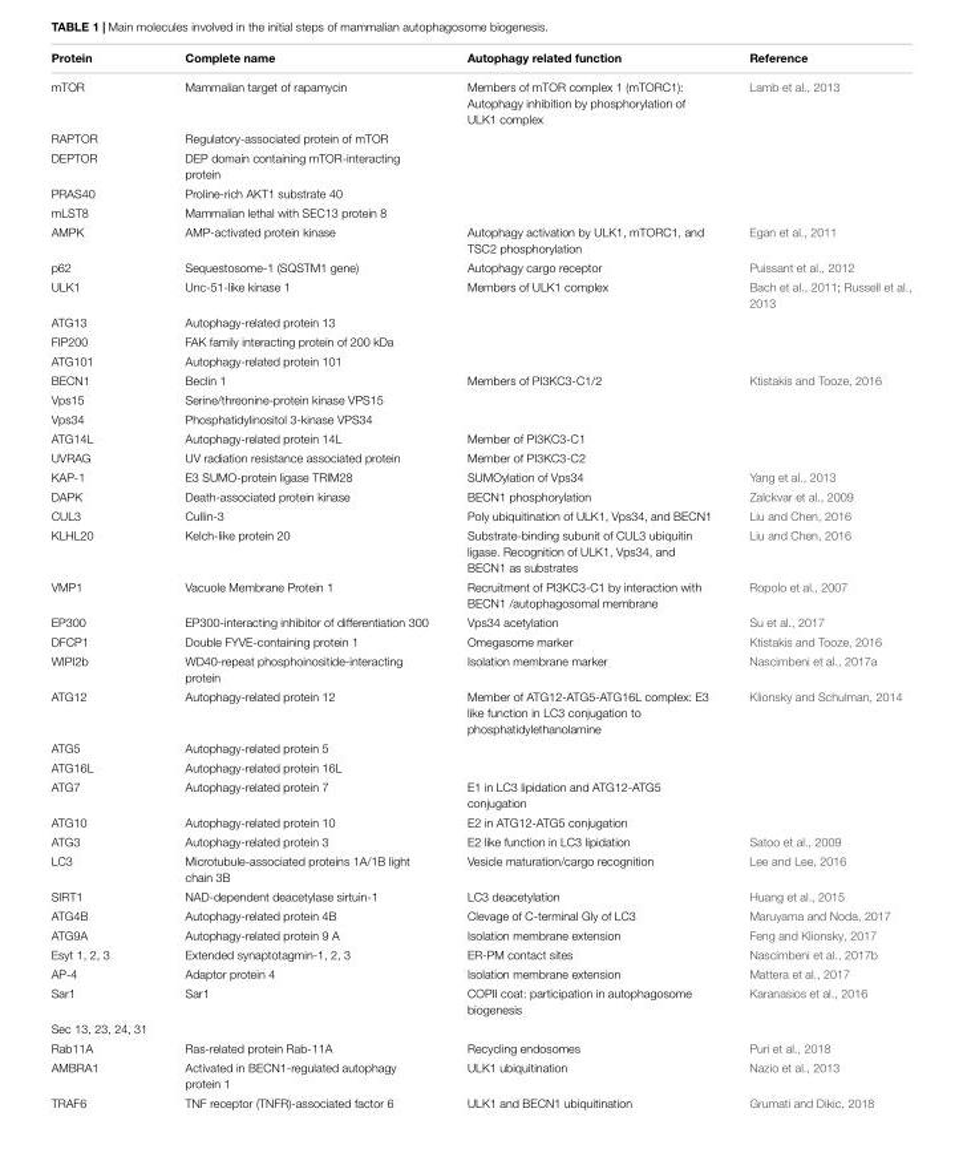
<table><thead><tr><td>Protein</td><td>Complete name</td><td>Autophagy related function</td><td>Reference</td></tr></thead><tbody><tr><td>mTOR</td><td>Mammalian target of rapamycin</td><td>Members of mTOR complex 1 (mTORC1): Autophagy inhibition by phosphorylation of ULK1 complex</td><td>Lamb et al., 2013</td></tr><tr><td>RAPTOR</td><td>Regulatory-associated protein of mTOR</td><td></td><td></td></tr><tr><td>DEPTOR</td><td>DEP domain containing mTOR-interacting protein</td><td></td><td></td></tr><tr><td>PRAS40</td><td>Proline-rich AKT1 substrate 40</td><td></td><td></td></tr><tr><td>mLST8</td><td>Mammalian lethal with SEC13 protein 8</td><td></td><td></td></tr><tr><td>AMPK</td><td>AMP-activated protein kinase</td><td>Autophagy activation by ULK1, mTORC1, and TSC2 phosphorylation</td><td>Egan et al., 2011</td></tr><tr><td>p62</td><td>Sequestosome-1 (SQSTM1 gene)</td><td>Autophagy cargo receptor</td><td>Puissant et al., 2012</td></tr><tr><td>ULK1</td><td>Unc-51-like kinase 1</td><td>Members of ULK1 complex</td><td>Bach et al., 2011; Russell et al., 2013</td></tr><tr><td>ATG13</td><td>Autophagy-related protein 13</td><td></td><td></td></tr><tr><td>FIP200</td><td>FAK family interacting protein of 200 kDa</td><td></td><td></td></tr><tr><td>ATG101</td><td>Autophagy-related protein 101</td><td></td><td></td></tr><tr><td>BECN1</td><td>Beclin 1</td><td>Members of PI3KC3-C1/2</td><td>Ktistakis and Tooze, 2016</td></tr><tr><td>Vps15</td><td>Serine/threonine-protein kinase VPS15</td><td></td><td></td></tr><tr><td>Vps34</td><td>Phosphatidylinositol 3-kinase VPS34</td><td></td><td></td></tr><tr><td>ATG14L</td><td>Autophagy-related protein 14L</td><td>Member of PI3KC3-C1</td><td></td></tr><tr><td>UVRAG</td><td>UV radiation resistance associated protein</td><td>Member of PI3KC3-C2</td><td></td></tr><tr><td>KAP-1</td><td>E3 SUMO-protein ligase TRIM28</td><td>SUMOylation of Vps34</td><td>Yang et al., 2013</td></tr><tr><td>DAPK</td><td>Death-associated protein kinase</td><td>BECN1 phosphorylation</td><td>Zalckvar et al., 2009</td></tr><tr><td>CUL3</td><td>Cullin-3</td><td>Poly ubiquitination of ULK1, Vps34, and BECN1</td><td>Liu and Chen, 2016</td></tr><tr><td>KLHL20</td><td>Kelch-like protein 20</td><td>Substrate-binding subunit of CUL3 ubiquitin ligase. Recognition of ULK1, Vps34, and BECN1 as substrates</td><td>Liu and Chen, 2016</td></tr><tr><td>VMP1</td><td>Vacuole Membrane Protein 1</td><td>Recruitment of PI3KC3-C1 by interaction with BECN1 /autophagosomal membrane</td><td>Ropolo et al., 2007</td></tr><tr><td>EP300</td><td>EP300-interacting inhibitor of differentiation 300</td><td>Vps34 acetylation</td><td>Su et al., 2017</td></tr><tr><td>DFCP1</td><td>Double FYVE-containing protein 1</td><td>Omegasome marker</td><td>Ktistakis and Tooze, 2016</td></tr><tr><td>WIPI2b</td><td>WD40-repeat phosphoinositide-interacting protein</td><td>Isolation membrane marker</td><td>Nascimbeni et al., 2017a</td></tr><tr><td>ATG12</td><td>Autophagy-related protein 12</td><td>Member of ATG12-ATG5-ATG16L complex: E3 like function in LC3 conjugation to phosphatidylethanolamine</td><td>Klionsky and Schulman, 2014</td></tr><tr><td>ATG5</td><td>Autophagy-related protein 5</td><td></td><td></td></tr><tr><td>ATG16L</td><td>Autophagy-related protein 16L</td><td></td><td></td></tr><tr><td>ATG7</td><td>Autophagy-related protein 7</td><td>E1 in LC3 lipidation and ATG12-ATG5 conjugation</td><td></td></tr><tr><td>ATG10</td><td>Autophagy-related protein 10</td><td>E2 in ATG12-ATG5 conjugation</td><td></td></tr><tr><td>ATG3</td><td>Autophagy-related protein 3</td><td>E2 like function in LC3 lipidation</td><td>Satoo et al., 2009</td></tr><tr><td>LC3</td><td>Microtubule-associated proteins 1A/1B light chain 3B</td><td>Vesicle maturation/cargo recognition</td><td>Lee and Lee, 2016</td></tr><tr><td>SIRT1</td><td>NAD-dependent deacetylase sirtuin-1</td><td>LC3 deacetylation</td><td>Huang et al., 2015</td></tr><tr><td>ATG4B</td><td>Autophagy-related protein 4B</td><td>Clevage of C-terminal Gly of LC3</td><td>Maruyama and Noda, 2017</td></tr><tr><td>ATG9A</td><td>Autophagy-related protein 9 A</td><td>Isolation membrane extension</td><td>Feng and Klionsky, 2017</td></tr><tr><td>Esyt 1, 2, 3</td><td>Extended synaptotagmin-1, 2, 3</td><td>ER-PM contact sites</td><td>Nascimbeni et al., 2017b</td></tr><tr><td>AP-4</td><td>Adaptor protein 4</td><td>Isolation membrane extension</td><td>Mattera et al., 2017</td></tr><tr><td>Sar1</td><td>Sar1</td><td>COPII coat: participation in autophagosome biogenesis</td><td>Karanasios et al., 2016</td></tr><tr><td colspan="4">Sec 13, 23, 24, 31</td></tr><tr><td>Rab11A</td><td>Ras-related protein Rab-11A</td><td>Recycling endosomes</td><td>Puri et al., 2018</td></tr><tr><td>AMBRA1</td><td>Activated in BECN1-regulated autophagy protein 1</td><td>ULK1 ubiquitination</td><td>Nazio et al., 2013</td></tr><tr><td>TRAF6</td><td>TNF receptor (TNFR)-associated factor 6</td><td>ULK1 and BECN1 ubiquitination</td><td>Grumati and Dikic, 2018</td></tr></tbody></table>